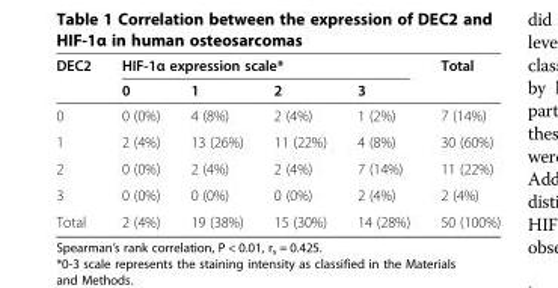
<table><thead><tr><td rowspan="2">DEC2</td><td colspan="4">HIF-1α expression scale*</td><td rowspan="2">Total</td></tr><tr><td>0</td><td>1</td><td>2</td><td>3</td></tr></thead><tbody><tr><td>0</td><td>0 (0%)</td><td>4 (8%)</td><td>2 (4%)</td><td>1 (2%)</td><td>7 (14%)</td></tr><tr><td>1</td><td>2 (4%)</td><td>13 (26%)</td><td>11 (22%)</td><td>4 (8%)</td><td>30 (60%)</td></tr><tr><td>2</td><td>0 (0%)</td><td>2 (4%)</td><td>2 (4%)</td><td>7 (14%)</td><td>11 (22%)</td></tr><tr><td>3</td><td>0 (0%)</td><td>0 (0%)</td><td>0 (0%)</td><td>2 (4%)</td><td>2 (4%)</td></tr><tr><td>Total</td><td>2 (4%)</td><td>19 (38%)</td><td>15 (30%)</td><td>14 (28%)</td><td>50 (100%)</td></tr></tbody></table>